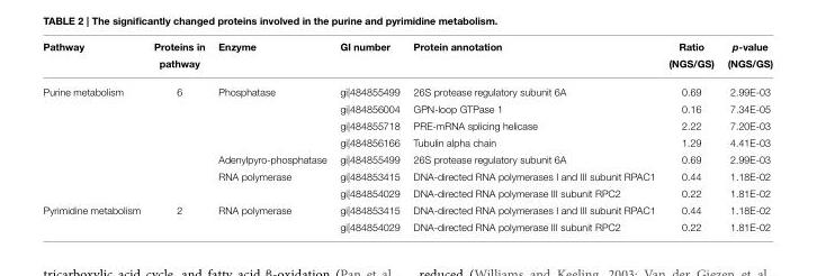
<table><thead><tr><td>Pathway</td><td>Proteins in pathway</td><td>Enzyme</td><td>GI number</td><td>Protein annotation</td><td>Ratio (NGS/GS)</td><td>p-value (NGS/GS)</td></tr></thead><tbody><tr><td rowspan="7">Purine metabolism</td><td>6</td><td>Phosphatase</td><td>gi|484855499</td><td>26S protease regulatory subunit 6A</td><td>0.69</td><td>2.99E-03</td></tr><tr><td></td><td></td><td>gi|484856004</td><td>GPN-loop GTPase 1</td><td>0.16</td><td>7.34E-05</td></tr><tr><td></td><td></td><td>gi|484855718</td><td>PRE-mRNA splicing helicase</td><td>2.22</td><td>7.20E-03</td></tr><tr><td></td><td></td><td>gi|484856166</td><td>Tubulin alpha chain</td><td>1.29</td><td>4.41E-03</td></tr><tr><td></td><td>Adenylpyro-phosphatase</td><td>gi|484855499</td><td>26S protease regulatory subunit 6A</td><td>0.69</td><td>2.99E-03</td></tr><tr><td></td><td>RNA polymerase</td><td>gi|484853415</td><td>DNA-directed RNA polymerases I and III subunit RPAC1</td><td>0.44</td><td>1.18E-02</td></tr><tr><td></td><td></td><td>gi|484854029</td><td>DNA-directed RNA polymerase III subunit RPC2</td><td>0.22</td><td>1.81E-02</td></tr><tr><td rowspan="2">Pyrimidine metabolism</td><td>2</td><td>RNA polymerase</td><td>gi|484853415</td><td>DNA-directed RNA polymerases I and III subunit RPAC1</td><td>0.44</td><td>1.18E-02</td></tr><tr><td></td><td></td><td>gi|484854029</td><td>DNA-directed RNA polymerase III subunit RPC2</td><td>0.22</td><td>1.81E-02</td></tr></tbody></table>